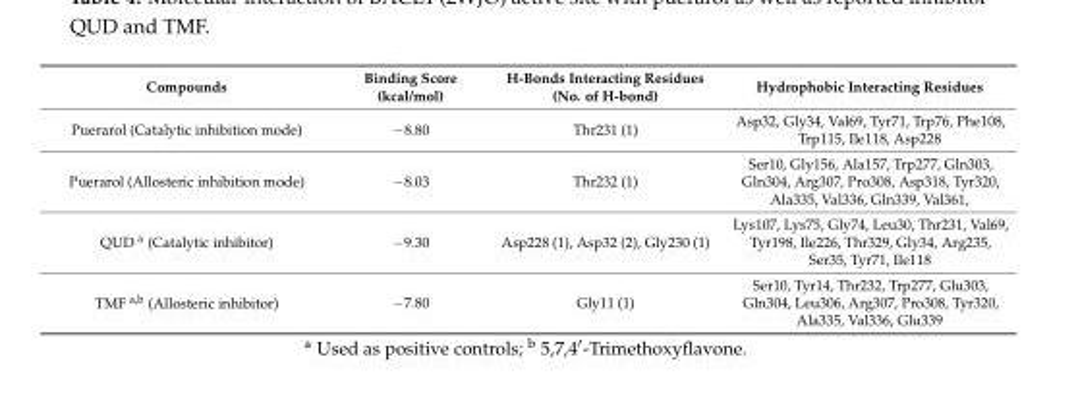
<table><thead><tr><td>Compounds</td><td>Binding Score (kcal/mol)</td><td>H-Bonds Interacting Residues (No. of H-bond)</td><td>Hydrophobic Interacting Residues</td></tr></thead><tbody><tr><td>Puerarol (Catalytic inhibition mode)</td><td>−8.80</td><td>Thr231 (1)</td><td>Asp32, Gly34, Val69, Tyr71, Trp76, Phe108, Trp115, Ile118, Asp228</td></tr><tr><td>Puerarol (Allosteric inhibition mode)</td><td>−8.03</td><td>Thr232 (1)</td><td>Ser10, Gly156, Ala157, Trp277, Gln303, Gln304, Arg307, Pro308, Asp318, Tyr320, Ala335, Val336, Gln339, Val361,</td></tr><tr><td>QUD <sup>a</sup> (Catalytic inhibitor)</td><td>−9.30</td><td>Asp228 (1), Asp32 (2), Gly230 (1)</td><td>Lys107, Lys75, Gly74, Leu30, Thr231, Val69, Tyr198, Ile226, Thr329, Gly34, Arg235, Ser35, Tyr71, Ile118</td></tr><tr><td>TMF <sup>a,b</sup> (Allosteric inhibitor)</td><td>−7.80</td><td>Gly11 (1)</td><td>Ser10, Tyr14, Thr232, Trp277, Glu303, Gln304, Leu306, Arg307, Pro308, Tyr320, Ala335, Val336, Glu339</td></tr></tbody></table>